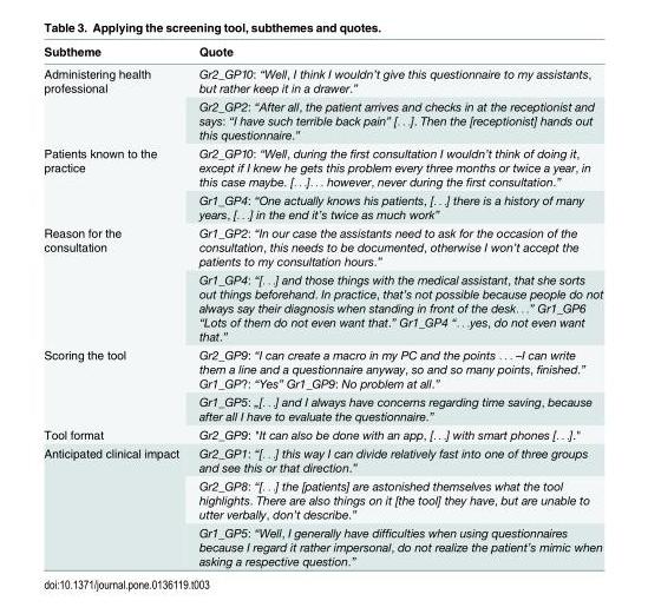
<table><thead><tr><td>Subtheme</td><td>Quote</td></tr></thead><tbody><tr><td rowspan="2">Administering health professional</td><td>Gr2_GP10: “Well, I think I wouldn’t give this questionnaire to my assistants, but rather keep it in a drawer.”</td></tr><tr><td>Gr2_GP2: “After all, the patient arrives and checks in at the receptionist and says: “I have such terrible back pain” [. . .]. Then the [receptionist] hands out this questionnaire.”</td></tr><tr><td rowspan="2">Patients known to the practice</td><td>Gr2_GP10: “Well, during the first consultation I wouldn’t think of doing it, except if I knew he gets this problem every three months or twice a year, in this case maybe. [. . .]. . . however, never during the first consultation.”</td></tr><tr><td>Gr1_GP4: “One actually knows his patients, [. . .] there is a history of many years, [. . .] in the end it’s twice as much work”</td></tr><tr><td rowspan="2">Reason for the consultation</td><td>Gr1_GP2: “In our case the assistants need to ask for the occasion of the consultation, this needs to be documented, otherwise I won’t accept the patients to my consultation hours.”</td></tr><tr><td>Gr1_GP4: “[. . .] and those things with the medical assistant, that she sorts out things beforehand. In practice, that’s not possible because people do not always say their diagnosis when standing in front of the desk. . .” Gr1_GP6 “Lots of them do not even want that.” Gr1_GP4 “. . .yes, do not even want that.”</td></tr><tr><td rowspan="2">Scoring the tool</td><td>Gr2_GP9: “I can create a macro in my PC and the points . . . –I can write them a line and a questionnaire anyway, so and so many points, finished.” Gr1_GP?: “Yes” Gr1_GP9: No problem at all.”</td></tr><tr><td>Gr1_GP5: „[. . .] and I always have concerns regarding time saving, because after all I have to evaluate the questionnaire.”</td></tr><tr><td>Tool format</td><td>Gr2_GP9: &quot;It can also be done with an app, [. . .] with smart phones [. . .].&quot;</td></tr><tr><td rowspan="3">Anticipated clinical impact</td><td>Gr2_GP1: “[. . .] this way I can divide relatively fast into one of three groups and see this or that direction.”</td></tr><tr><td>Gr2_GP8: “[. . .] the [patients] are astonished themselves what the tool highlights. There are also things on it [the tool] they have, but are unable to utter verbally, don’t describe.”</td></tr><tr><td>Gr1_GP5: “Well, I generally have difficulties when using questionnaires because I regard it rather impersonal, do not realize the patient’s mimic when asking a respective question.”</td></tr></tbody></table>